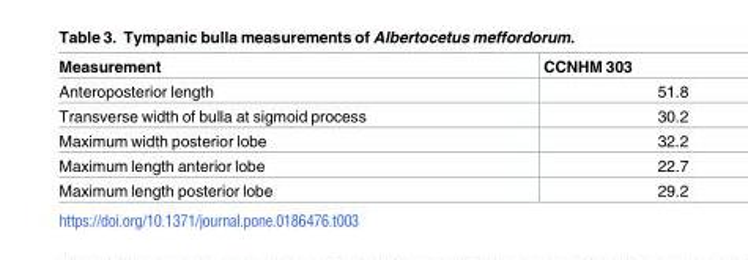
<table><thead><tr><td>Measurement</td><td>CCNHM 303</td></tr></thead><tbody><tr><td>Anteroposterior length</td><td>51.8</td></tr><tr><td>Transverse width of bulla at sigmoid process</td><td>30.2</td></tr><tr><td>Maximum width posterior lobe</td><td>32.2</td></tr><tr><td>Maximum length anterior lobe</td><td>22.7</td></tr><tr><td>Maximum length posterior lobe</td><td>29.2</td></tr></tbody></table>